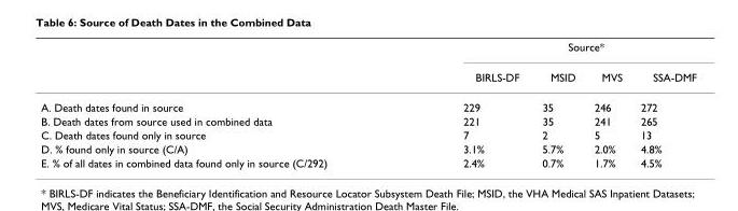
<table><thead><tr><td rowspan="2"></td><td colspan="4">Source*</td></tr><tr><td>BIRLS-DF</td><td>MSID</td><td>MVS</td><td>SSA-DMF</td></tr></thead><tbody><tr><td>A. Death dates found in source</td><td>229</td><td>35</td><td>246</td><td>272</td></tr><tr><td>B. Death dates from source used in combined data</td><td>221</td><td>35</td><td>241</td><td>265</td></tr><tr><td>C. Death dates found only in source</td><td>7</td><td>2</td><td>5</td><td>13</td></tr><tr><td>D. % found only in source (C/A)</td><td>3.1%</td><td>5.7%</td><td>2.0%</td><td>4.8%</td></tr><tr><td>E. % of all dates in combined data found only in source (C/292)</td><td>2.4%</td><td>0.7%</td><td>1.7%</td><td>4.5%</td></tr></tbody></table>